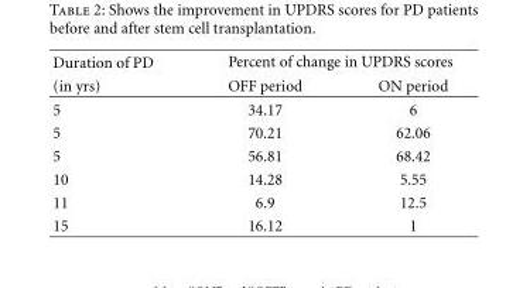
<table><thead><tr><td rowspan="2">Duration of PD (in yrs)</td><td colspan="2">Percent of change in UPDRS scores</td></tr><tr><td>OFF period</td><td>ON period</td></tr></thead><tbody><tr><td>5</td><td>34.17</td><td>6</td></tr><tr><td>5</td><td>70.21</td><td>62.06</td></tr><tr><td>5</td><td>56.81</td><td>68.42</td></tr><tr><td>10</td><td>14.28</td><td>5.55</td></tr><tr><td>11</td><td>6.9</td><td>12.5</td></tr><tr><td>15</td><td>16.12</td><td>1</td></tr></tbody></table>